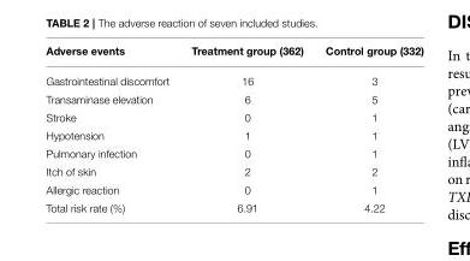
<table><thead><tr><td>Adverse events</td><td>Treatment group (362)</td><td>Control group (332)</td></tr></thead><tbody><tr><td>Gastrointestinal discomfort</td><td>16</td><td>3</td></tr><tr><td>Transaminase elevation</td><td>6</td><td>5</td></tr><tr><td>Stroke</td><td>0</td><td>1</td></tr><tr><td>Hypotension</td><td>1</td><td>1</td></tr><tr><td>Pulmonary infection</td><td>0</td><td>1</td></tr><tr><td>Itch of skin</td><td>2</td><td>2</td></tr><tr><td>Allergic reaction</td><td>0</td><td>1</td></tr><tr><td>Total risk rate (%)</td><td>6.91</td><td>4.22</td></tr></tbody></table>